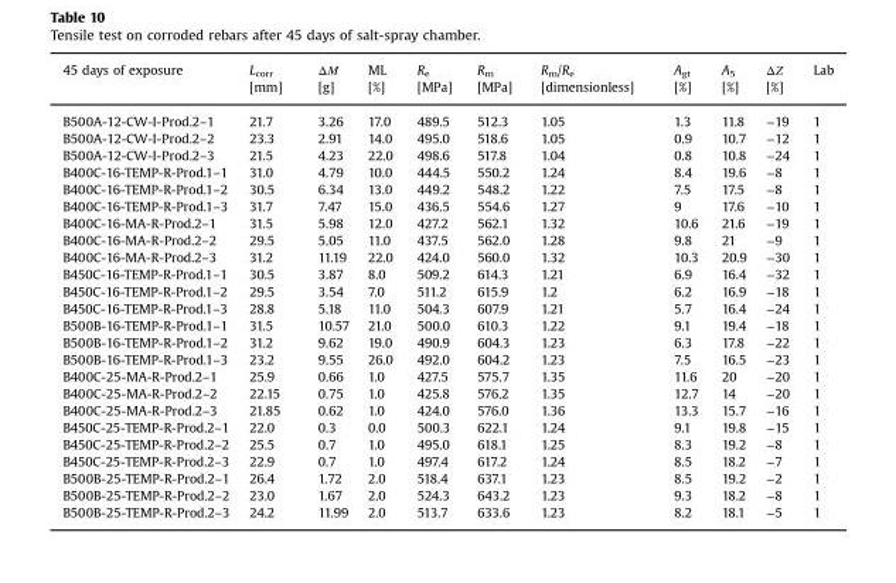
<table><thead><tr><td>45 days of exposure</td><td>L<sub>corr</sub> [mm]</td><td>ΔΜ [g]</td><td>ML [%]</td><td>R<sub>e</sub> [MPa]</td><td>R<sub>m</sub> [MPa]</td><td>R<sub>m</sub>/R<sub>e</sub> [dimensionless]</td><td>A<sub>gt</sub> [%]</td><td>A<sub>5</sub> [%]</td><td>ΔΖ [%]</td><td>Lab</td></tr></thead><tbody><tr><td>B500A-12-CW-I-Prod.2–1</td><td>21.7</td><td>3.26</td><td>17.0</td><td>489.5</td><td>512.3</td><td>1.05</td><td>1.3</td><td>11.8</td><td>−19</td><td>1</td></tr><tr><td>B500A-12-CW-I-Prod.2–2</td><td>23.3</td><td>2.91</td><td>14.0</td><td>495.0</td><td>518.6</td><td>1.05</td><td>0.9</td><td>10.7</td><td>−12</td><td>1</td></tr><tr><td>B500A-12-CW-I-Prod.2–3</td><td>21.5</td><td>4.23</td><td>22.0</td><td>498.6</td><td>517.8</td><td>1.04</td><td>0.8</td><td>10.8</td><td>−24</td><td>1</td></tr><tr><td>B400C-16-TEMP-R-Prod.1–1</td><td>31.0</td><td>4.79</td><td>10.0</td><td>444.5</td><td>550.2</td><td>1.24</td><td>8.4</td><td>19.6</td><td>−8</td><td>1</td></tr><tr><td>B400C-16-TEMP-R-Prod.1–2</td><td>30.5</td><td>6.34</td><td>13.0</td><td>449.2</td><td>548.2</td><td>1.22</td><td>7.5</td><td>17.5</td><td>−8</td><td>1</td></tr><tr><td>B400C-16-TEMP-R-Prod.1–3</td><td>31.7</td><td>7.47</td><td>15.0</td><td>436.5</td><td>554.6</td><td>1.27</td><td>9</td><td>17.6</td><td>−10</td><td>1</td></tr><tr><td>B400C-16-MA-R-Prod.2–1</td><td>31.5</td><td>5.98</td><td>12.0</td><td>427.2</td><td>562.1</td><td>1.32</td><td>10.6</td><td>21.6</td><td>−19</td><td>1</td></tr><tr><td>B400C-16-MA-R-Prod.2–2</td><td>29.5</td><td>5.05</td><td>11.0</td><td>437.5</td><td>562.0</td><td>1.28</td><td>9.8</td><td>21</td><td>−9</td><td>1</td></tr><tr><td>B400C-16-MA-R-Prod.2–3</td><td>31.2</td><td>11.19</td><td>22.0</td><td>424.0</td><td>560.0</td><td>1.32</td><td>10.3</td><td>20.9</td><td>−30</td><td>1</td></tr><tr><td>B450C-16-TEMP-R-Prod.1–1</td><td>30.5</td><td>3.87</td><td>8.0</td><td>509.2</td><td>614.3</td><td>1.21</td><td>6.9</td><td>16.4</td><td>−32</td><td>1</td></tr><tr><td>B450C-16-TEMP-R-Prod.1–2</td><td>29.5</td><td>3.54</td><td>7.0</td><td>511.2</td><td>615.9</td><td>1.2</td><td>6.2</td><td>16.9</td><td>−18</td><td>1</td></tr><tr><td>B450C-16-TEMP-R-Prod.1–3</td><td>28.8</td><td>5.18</td><td>11.0</td><td>504.3</td><td>607.9</td><td>1.21</td><td>5.7</td><td>16.4</td><td>−24</td><td>1</td></tr><tr><td>B500B-16-TEMP-R-Prod.1–1</td><td>31.5</td><td>10.57</td><td>21.0</td><td>500.0</td><td>610.3</td><td>1.22</td><td>9.1</td><td>19.4</td><td>−18</td><td>1</td></tr><tr><td>B500B-16-TEMP-R-Prod.1–2</td><td>31.2</td><td>9.62</td><td>19.0</td><td>490.9</td><td>604.3</td><td>1.23</td><td>6.3</td><td>17.8</td><td>−22</td><td>1</td></tr><tr><td>B500B-16-TEMP-R-Prod.1–3</td><td>23.2</td><td>9.55</td><td>26.0</td><td>492.0</td><td>604.2</td><td>1.23</td><td>7.5</td><td>16.5</td><td>−23</td><td>1</td></tr><tr><td>B400C-25-MA-R-Prod.2–1</td><td>25.9</td><td>0.66</td><td>1.0</td><td>427.5</td><td>575.7</td><td>1.35</td><td>11.6</td><td>20</td><td>−20</td><td>1</td></tr><tr><td>B400C-25-MA-R-Prod.2–2</td><td>22.15</td><td>0.75</td><td>1.0</td><td>425.8</td><td>576.2</td><td>1.35</td><td>12.7</td><td>14</td><td>−20</td><td>1</td></tr><tr><td>B400C-25-MA-R-Prod.2–3</td><td>21.85</td><td>0.62</td><td>1.0</td><td>424.0</td><td>576.0</td><td>1.36</td><td>13.3</td><td>15.7</td><td>−16</td><td>1</td></tr><tr><td>B450C-25-TEMP-R-Prod.2–1</td><td>22.0</td><td>0.3</td><td>0.0</td><td>500.3</td><td>622.1</td><td>1.24</td><td>9.1</td><td>19.8</td><td>−15</td><td>1</td></tr><tr><td>B450C-25-TEMP-R-Prod.2–2</td><td>25.5</td><td>0.7</td><td>1.0</td><td>495.0</td><td>618.1</td><td>1.25</td><td>8.3</td><td>19.2</td><td>−8</td><td>1</td></tr><tr><td>B450C-25-TEMP-R-Prod.2–3</td><td>22.9</td><td>0.7</td><td>1.0</td><td>497.4</td><td>617.2</td><td>1.24</td><td>8.5</td><td>18.2</td><td>−7</td><td>1</td></tr><tr><td>B500B-25-TEMP-R-Prod.2–1</td><td>26.4</td><td>1.72</td><td>2.0</td><td>518.4</td><td>637.1</td><td>1.23</td><td>8.5</td><td>19.2</td><td>−2</td><td>1</td></tr><tr><td>B500B-25-TEMP-R-Prod.2–2</td><td>23.0</td><td>1.67</td><td>2.0</td><td>524.3</td><td>643.2</td><td>1.23</td><td>9.3</td><td>18.2</td><td>−8</td><td>1</td></tr><tr><td>B500B-25-TEMP-R-Prod.2–3</td><td>24.2</td><td>11.99</td><td>2.0</td><td>513.7</td><td>633.6</td><td>1.23</td><td>8.2</td><td>18.1</td><td>−5</td><td>1</td></tr></tbody></table>